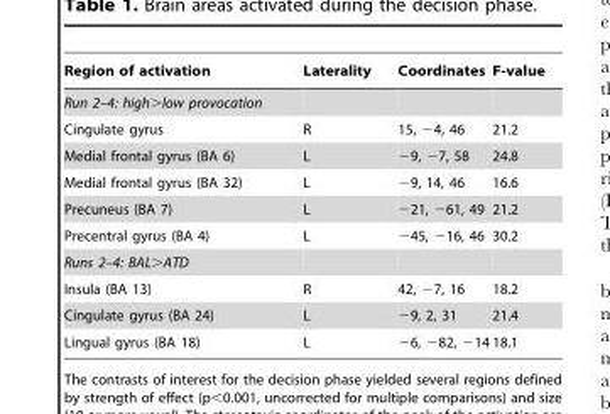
<table><thead><tr><td>Region of activation</td><td>Laterality</td><td>Coordinates</td><td>F-value</td></tr></thead><tbody><tr><td colspan="4">Run 2–4: high&gt;low provocation</td></tr><tr><td>Cingulate gyrus</td><td>R</td><td>15, −4, 46</td><td>21.2</td></tr><tr><td>Medial frontal gyrus (BA 6)</td><td>L</td><td>−9, −7, 58</td><td>24.8</td></tr><tr><td>Medial frontal gyrus (BA 32)</td><td>L</td><td>−9, 14, 46</td><td>16.6</td></tr><tr><td>Precuneus (BA 7)</td><td>L</td><td>−21, −61, 49</td><td>21.2</td></tr><tr><td>Precentral gyrus (BA 4)</td><td>L</td><td>−45, −16, 46</td><td>30.2</td></tr><tr><td colspan="4">Runs 2–4: BAL&gt;ATD</td></tr><tr><td>Insula (BA 13)</td><td>R</td><td>42, −7, 16</td><td>18.2</td></tr><tr><td>Cingulate gyrus (BA 24)</td><td>L</td><td>−9, 2, 31</td><td>21.4</td></tr><tr><td>Lingual gyrus (BA 18)</td><td>L</td><td>−6, −82, −14</td><td>18.1</td></tr></tbody></table>